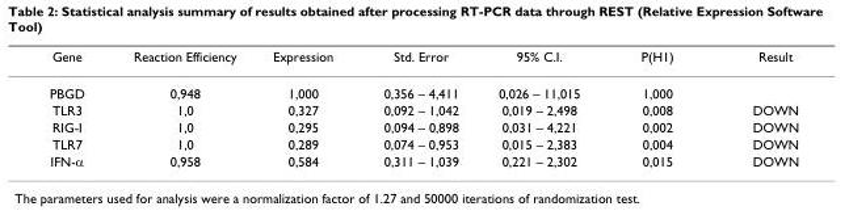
<table><thead><tr><td>Gene</td><td>Reaction Efficiency</td><td>Expression</td><td>Std. Error</td><td>95% C.I.</td><td>P(H1)</td><td>Result</td></tr></thead><tbody><tr><td>PBGD</td><td>0,948</td><td>1,000</td><td>0,356 – 4,411</td><td>0,026 – 11,015</td><td>1,000</td><td></td></tr><tr><td>TLR3</td><td>1,0</td><td>0,327</td><td>0,092 – 1,042</td><td>0,019 – 2,498</td><td>0,008</td><td>DOWN</td></tr><tr><td>RIG-I</td><td>1,0</td><td>0,295</td><td>0,094 – 0,898</td><td>0,031 – 4,221</td><td>0,002</td><td>DOWN</td></tr><tr><td>TLR7</td><td>1,0</td><td>0,289</td><td>0,074 – 0,953</td><td>0,015 – 2,383</td><td>0,004</td><td>DOWN</td></tr><tr><td>IFN-α</td><td>0,958</td><td>0,584</td><td>0,311 – 1,039</td><td>0,221 – 2,302</td><td>0,015</td><td>DOWN</td></tr></tbody></table>